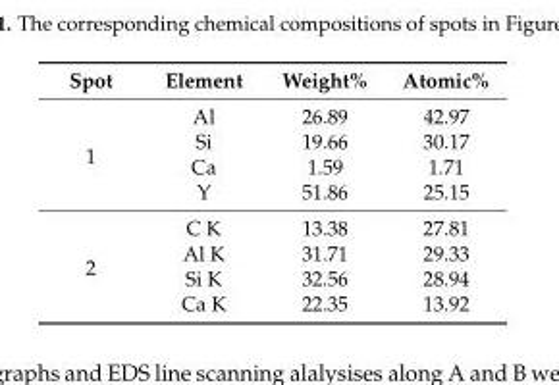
<table><thead><tr><td>Spot</td><td>Element</td><td>Weight%</td><td>Atomic%</td></tr></thead><tbody><tr><td rowspan="4">1</td><td>Al</td><td>26.89</td><td>42.97</td></tr><tr><td>Si</td><td>19.66</td><td>30.17</td></tr><tr><td>Ca</td><td>1.59</td><td>1.71</td></tr><tr><td>Y</td><td>51.86</td><td>25.15</td></tr><tr><td rowspan="4">2</td><td>C K</td><td>13.38</td><td>27.81</td></tr><tr><td>Al K</td><td>31.71</td><td>29.33</td></tr><tr><td>Si K</td><td>32.56</td><td>28.94</td></tr><tr><td>Ca K</td><td>22.35</td><td>13.92</td></tr></tbody></table>